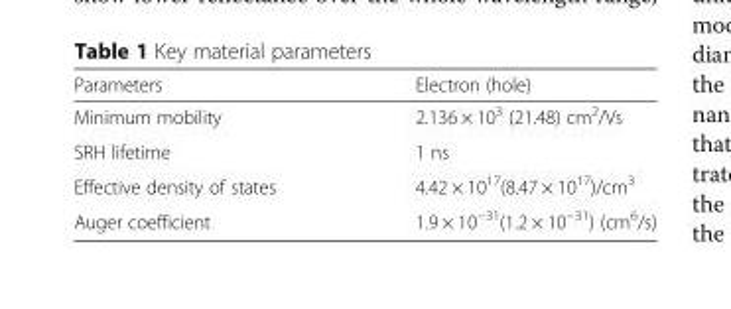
<table><thead><tr><td>Parameters</td><td>Electron (hole)</td></tr></thead><tbody><tr><td>Minimum mobility</td><td>2.136 × 10<sup>3</sup> (21.48) cm<sup>2</sup>/Vs</td></tr><tr><td>SRH lifetime</td><td>1 ns</td></tr><tr><td>Effective density of states</td><td>4.42 × 10<sup>17</sup>(8.47 × 10<sup>17</sup>)/cm<sup>3</sup></td></tr><tr><td>Auger coefficient</td><td>1.9 × 10<sup>−31</sup>(1.2 × 10<sup>−31</sup>) (cm<sup>6</sup>/s)</td></tr></tbody></table>